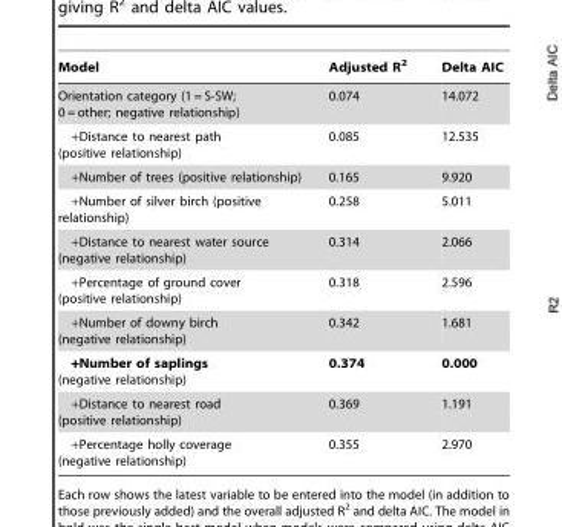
<table><thead><tr><td>Model</td><td>Adjusted R<sup>2</sup></td><td>Delta AIC</td></tr></thead><tbody><tr><td>Orientation category (1 = S-SW; 0 = other; negative relationship)</td><td>0.074</td><td>14.072</td></tr><tr><td>+Distance to nearest path (positive relationship)</td><td>0.085</td><td>12.535</td></tr><tr><td>+Number of trees (positive relationship)</td><td>0.165</td><td>9.920</td></tr><tr><td>+Number of silver birch (positive relationship)</td><td>0.258</td><td>5.011</td></tr><tr><td>+Distance to nearest water source (negative relationship)</td><td>0.314</td><td>2.066</td></tr><tr><td>+Percentage of ground cover (positive relationship)</td><td>0.318</td><td>2.596</td></tr><tr><td>+Number of downy birch (negative relationship)</td><td>0.342</td><td>1.681</td></tr><tr><td>+Number of saplings (negative relationship)</td><td>0.374</td><td>0.000</td></tr><tr><td>+Distance to nearest road (positive relationship)</td><td>0.369</td><td>1.191</td></tr><tr><td>+Percentage holly coverage (negative relationship)</td><td>0.355</td><td>2.970</td></tr></tbody></table>